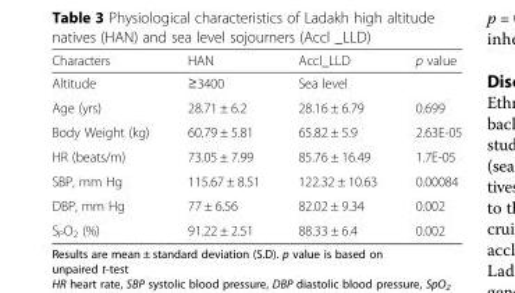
<table><thead><tr><td>Characters</td><td>HAN</td><td>Accl_LLD</td><td>p value</td></tr></thead><tbody><tr><td>Altitude</td><td>≥3400</td><td>Sea level</td><td></td></tr><tr><td>Age (yrs)</td><td>28.71 ± 6.2</td><td>28.16 ± 6.79</td><td>0.699</td></tr><tr><td>Body Weight (kg)</td><td>60.79 ± 5.81</td><td>65.82 ± 5.9</td><td>2.63E-05</td></tr><tr><td>HR (beats/m)</td><td>73.05 ± 7.99</td><td>85.76 ± 16.49</td><td>1.7E-05</td></tr><tr><td>SBP, mm Hg</td><td>115.67 ± 8.51</td><td>122.32 ± 10.63</td><td>0.00084</td></tr><tr><td>DBP, mm Hg</td><td>77 ± 6.56</td><td>82.02 ± 9.34</td><td>0.002</td></tr><tr><td>S<sub>P</sub>O<sub>2</sub> (%)</td><td>91.22 ± 2.51</td><td>88.33 ± 6.4</td><td>0.002</td></tr></tbody></table>